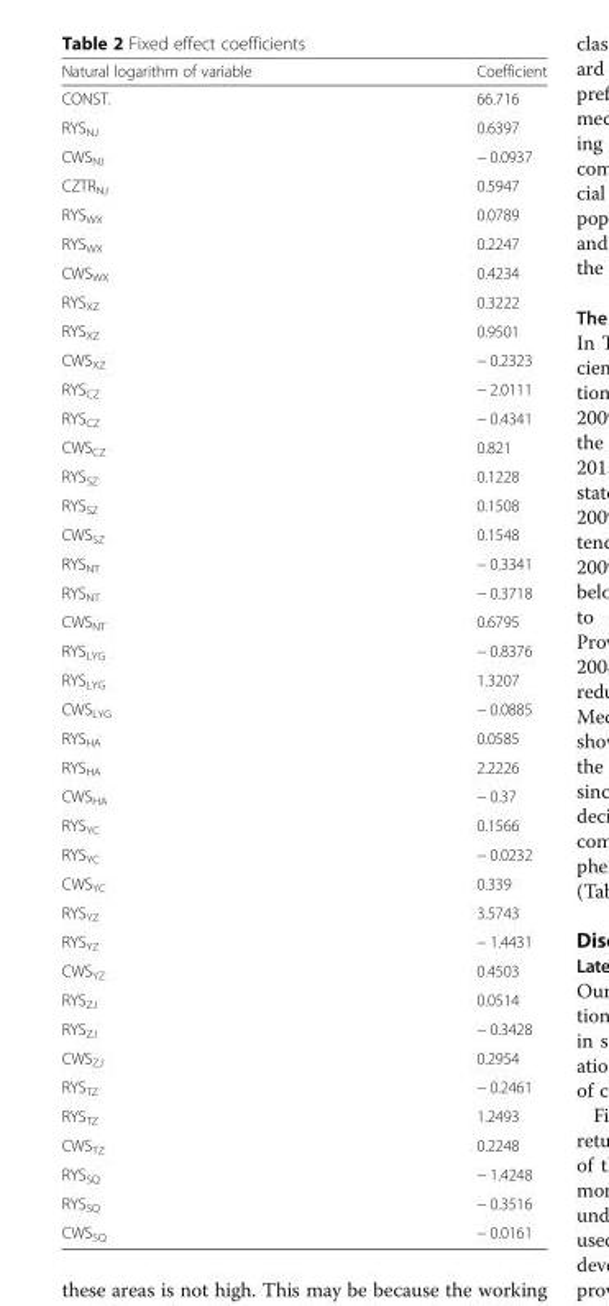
<table><thead><tr><td>Natural logarithm of variable</td><td>Coefficient</td></tr></thead><tbody><tr><td>CONST.</td><td>66.716</td></tr><tr><td>RYS<sub>NJ</sub></td><td>0.6397</td></tr><tr><td>CWS<sub>NJ</sub></td><td>− 0.0937</td></tr><tr><td>CZTR<sub>NJ</sub></td><td>0.5947</td></tr><tr><td>RYS<sub>WX</sub></td><td>0.0789</td></tr><tr><td>RYS<sub>WX</sub></td><td>0.2247</td></tr><tr><td>CWS<sub>WX</sub></td><td>0.4234</td></tr><tr><td>RYS<sub>XZ</sub></td><td>0.3222</td></tr><tr><td>RYS<sub>XZ</sub></td><td>0.9501</td></tr><tr><td>CWS<sub>XZ</sub></td><td>− 0.2323</td></tr><tr><td>RYS<sub>CZ</sub></td><td>− 2.0111</td></tr><tr><td>RYS<sub>CZ</sub></td><td>− 0.4341</td></tr><tr><td>CWS<sub>CZ</sub></td><td>0.821</td></tr><tr><td>RYS<sub>SZ</sub></td><td>0.1228</td></tr><tr><td>RYS<sub>SZ</sub></td><td>0.1508</td></tr><tr><td>CWS<sub>SZ</sub></td><td>0.1548</td></tr><tr><td>RYS<sub>NT</sub></td><td>− 0.3341</td></tr><tr><td>RYS<sub>NT</sub></td><td>− 0.3718</td></tr><tr><td>CWS<sub>NT</sub></td><td>0.6795</td></tr><tr><td>RYS<sub>LYG</sub></td><td>− 0.8376</td></tr><tr><td>RYS<sub>LYG</sub></td><td>1.3207</td></tr><tr><td>CWS<sub>LYG</sub></td><td>− 0.0885</td></tr><tr><td>RYS<sub>HA</sub></td><td>0.0585</td></tr><tr><td>RYS<sub>HA</sub></td><td>2.2226</td></tr><tr><td>CWS<sub>HA</sub></td><td>− 0.37</td></tr><tr><td>RYS<sub>YC</sub></td><td>0.1566</td></tr><tr><td>RYS<sub>YC</sub></td><td>− 0.0232</td></tr><tr><td>CWS<sub>YC</sub></td><td>0.339</td></tr><tr><td>RYS<sub>YZ</sub></td><td>3.5743</td></tr><tr><td>RYS<sub>YZ</sub></td><td>− 1.4431</td></tr><tr><td>CWS<sub>YZ</sub></td><td>0.4503</td></tr><tr><td>RYS<sub>ZJ</sub></td><td>0.0514</td></tr><tr><td>RYS<sub>ZJ</sub></td><td>− 0.3428</td></tr><tr><td>CWS<sub>ZJ</sub></td><td>0.2954</td></tr><tr><td>RYS<sub>TZ</sub></td><td>− 0.2461</td></tr><tr><td>RYS<sub>TZ</sub></td><td>1.2493</td></tr><tr><td>CWS<sub>TZ</sub></td><td>0.2248</td></tr><tr><td>RYS<sub>SQ</sub></td><td>− 1.4248</td></tr><tr><td>RYS<sub>SQ</sub></td><td>− 0.3516</td></tr><tr><td>CWS<sub>SQ</sub></td><td>− 0.0161</td></tr></tbody></table>